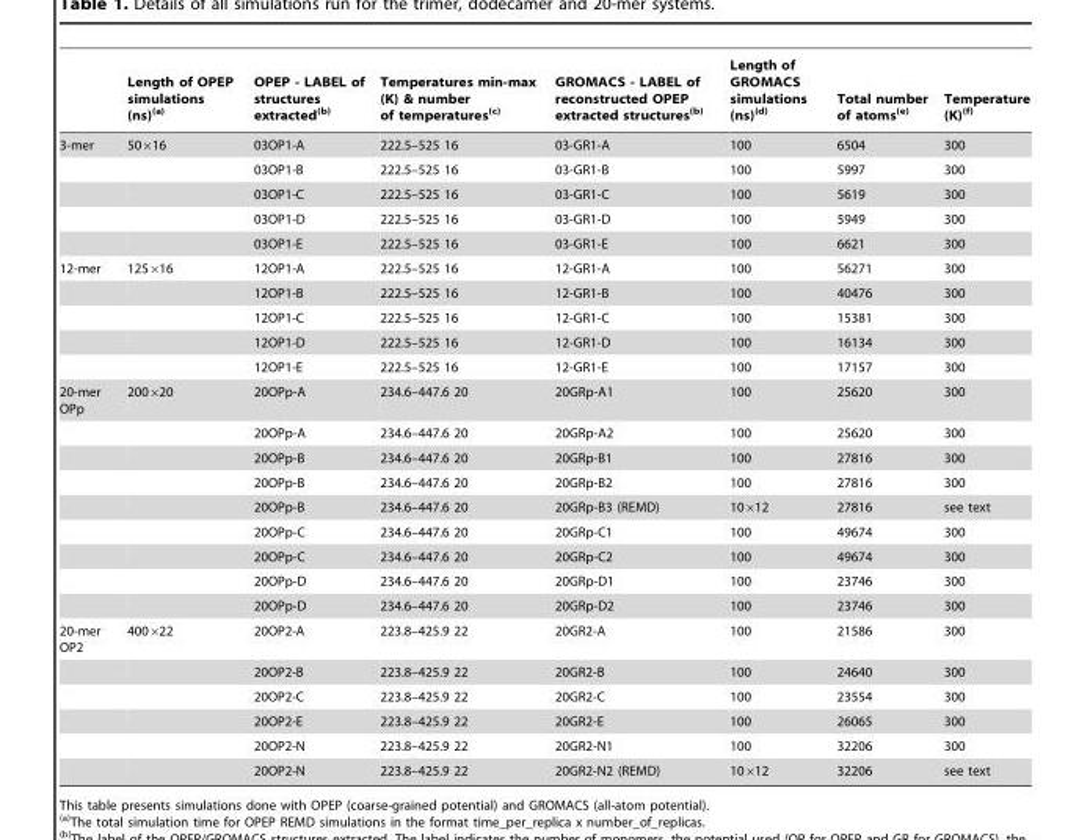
<table><thead><tr><td></td><td>Length of OPEP simulations (ns)(a)</td><td>OPEP - LABEL of structures extracted(b)</td><td>Temperatures min-max (K) &amp; number of temperatures(c)</td><td>GROMACS - LABEL of reconstructed OPEP extracted structures(b)</td><td>Length of GROMACS simulations (ns)(d)</td><td>Total number of atoms(e)</td><td>Temperature (K)(f)</td></tr></thead><tbody><tr><td rowspan="5">3-mer</td><td>50×16</td><td>03OP1-A</td><td>222.5–525 16</td><td>03-GR1-A</td><td>100</td><td>6504</td><td>300</td></tr><tr><td></td><td>03OP1-B</td><td>222.5–525 16</td><td>03-GR1-B</td><td>100</td><td>5997</td><td>300</td></tr><tr><td></td><td>03OP1-C</td><td>222.5–525 16</td><td>03-GR1-C</td><td>100</td><td>5619</td><td>300</td></tr><tr><td></td><td>03OP1-D</td><td>222.5–525 16</td><td>03-GR1-D</td><td>100</td><td>5949</td><td>300</td></tr><tr><td></td><td>03OP1-E</td><td>222.5–525 16</td><td>03-GR1-E</td><td>100</td><td>6621</td><td>300</td></tr><tr><td rowspan="5">12-mer</td><td>125×16</td><td>12OP1-A</td><td>222.5–525 16</td><td>12-GR1-A</td><td>100</td><td>56271</td><td>300</td></tr><tr><td></td><td>12OP1-B</td><td>222.5–525 16</td><td>12-GR1-B</td><td>100</td><td>40476</td><td>300</td></tr><tr><td></td><td>12OP1-C</td><td>222.5–525 16</td><td>12-GR1-C</td><td>100</td><td>15381</td><td>300</td></tr><tr><td></td><td>12OP1-D</td><td>222.5–525 16</td><td>12-GR1-D</td><td>100</td><td>16134</td><td>300</td></tr><tr><td></td><td>12OP1-E</td><td>222.5–525 16</td><td>12-GR1-E</td><td>100</td><td>17157</td><td>300</td></tr><tr><td rowspan="9">20-mer OPp</td><td>200×20</td><td>20OPp-A</td><td>234.6–447.6 20</td><td>20GRp-A1</td><td>100</td><td>25620</td><td>300</td></tr><tr><td></td><td>20OPp-A</td><td>234.6–447.6 20</td><td>20GRp-A2</td><td>100</td><td>25620</td><td>300</td></tr><tr><td></td><td>20OPp-B</td><td>234.6–447.6 20</td><td>20GRp-B1</td><td>100</td><td>27816</td><td>300</td></tr><tr><td></td><td>20OPp-B</td><td>234.6–447.6 20</td><td>20GRp-B2</td><td>100</td><td>27816</td><td>300</td></tr><tr><td></td><td>20OPp-B</td><td>234.6–447.6 20</td><td>20GRp-B3 (REMD)</td><td>10×12</td><td>27816</td><td>see text</td></tr><tr><td></td><td>20OPp-C</td><td>234.6–447.6 20</td><td>20GRp-C1</td><td>100</td><td>49674</td><td>300</td></tr><tr><td></td><td>20OPp-C</td><td>234.6–447.6 20</td><td>20GRp-C2</td><td>100</td><td>49674</td><td>300</td></tr><tr><td></td><td>20OPp-D</td><td>234.6–447.6 20</td><td>20GRp-D1</td><td>100</td><td>23746</td><td>300</td></tr><tr><td></td><td>20OPp-D</td><td>234.6–447.6 20</td><td>20GRp-D2</td><td>100</td><td>23746</td><td>300</td></tr><tr><td rowspan="6">20-mer OP2</td><td>400×22</td><td>20OP2-A</td><td>223.8–425.9 22</td><td>20GR2-A</td><td>100</td><td>21586</td><td>300</td></tr><tr><td></td><td>20OP2-B</td><td>223.8–425.9 22</td><td>20GR2-B</td><td>100</td><td>24640</td><td>300</td></tr><tr><td></td><td>20OP2-C</td><td>223.8–425.9 22</td><td>20GR2-C</td><td>100</td><td>23554</td><td>300</td></tr><tr><td></td><td>20OP2-E</td><td>223.8–425.9 22</td><td>20GR2-E</td><td>100</td><td>26065</td><td>300</td></tr><tr><td></td><td>20OP2-N</td><td>223.8–425.9 22</td><td>20GR2-N1</td><td>100</td><td>32206</td><td>300</td></tr><tr><td></td><td>20OP2-N</td><td>223.8–425.9 22</td><td>20GR2-N2 (REMD)</td><td>10×12</td><td>32206</td><td>see text</td></tr></tbody></table>